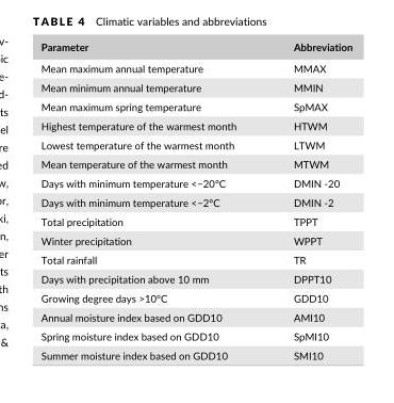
<table><thead><tr><td>Parameter</td><td>Abbreviation</td></tr></thead><tbody><tr><td>Mean maximum annual temperature</td><td>MMAX</td></tr><tr><td>Mean minimum annual temperature</td><td>MMIN</td></tr><tr><td>Mean maximum spring temperature</td><td>SpMAX</td></tr><tr><td>Highest temperature of the warmest month</td><td>HTWM</td></tr><tr><td>Lowest temperature of the warmest month</td><td>LTWM</td></tr><tr><td>Mean temperature of the warmest month</td><td>MTWM</td></tr><tr><td>Days with minimum temperature &lt;−20°C</td><td>DMIN - 20</td></tr><tr><td>Days with minimum temperature &lt;−2°C</td><td>DMIN - 2</td></tr><tr><td>Total precipitation</td><td>TPPT</td></tr><tr><td>Winter precipitation</td><td>WPPT</td></tr><tr><td>Total rainfall</td><td>TR</td></tr><tr><td>Days with precipitation above 10 mm</td><td>DPPT10</td></tr><tr><td>Growing degree days &gt;10°C</td><td>GDD10</td></tr><tr><td>Annual moisture index based on GDD10</td><td>AMI10</td></tr><tr><td>Spring moisture index based on GDD10</td><td>SpMI10</td></tr><tr><td>Summer moisture index based on GDD10</td><td>SMI10</td></tr></tbody></table>